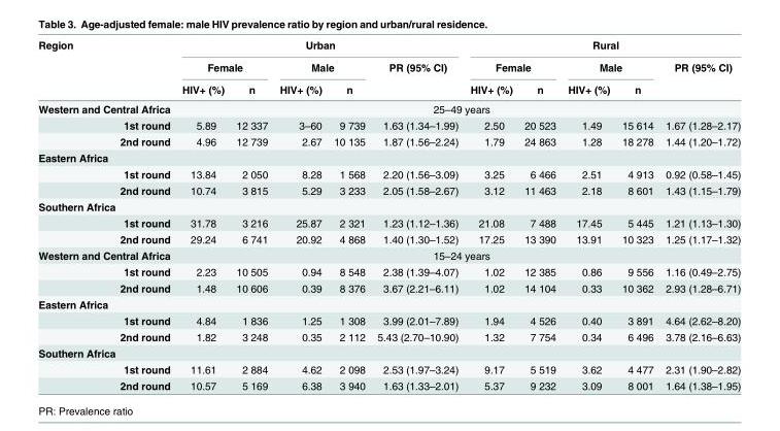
<table><thead><tr><td rowspan="3">Region</td><td colspan="5">Urban</td><td colspan="5">Rural</td></tr><tr><td colspan="2">Female</td><td colspan="2">Male</td><td rowspan="2">PR (95% CI)</td><td colspan="2">Female</td><td colspan="2">Male</td><td rowspan="2">PR (95% CI)</td></tr><tr><td>HIV+ (%)</td><td>n</td><td>HIV+ (%)</td><td>n</td><td>HIV+ (%)</td><td>n</td><td>HIV+ (%)</td><td>n</td></tr></thead><tbody><tr><td>Western and Central Africa</td><td colspan="10">25–49 years</td></tr><tr><td>1st round</td><td>5.89</td><td>12 337</td><td>3–60</td><td>9 739</td><td>1.63 (1.34–1.99)</td><td>2.50</td><td>20 523</td><td>1.49</td><td>15 614</td><td>1.67 (1.28–2.17)</td></tr><tr><td>2nd round</td><td>4.96</td><td>12 739</td><td>2.67</td><td>10 135</td><td>1.87 (1.56–2.24)</td><td>1.79</td><td>24 863</td><td>1.28</td><td>18 278</td><td>1.44 (1.20–1.72)</td></tr><tr><td colspan="11">Eastern Africa</td></tr><tr><td>1st round</td><td>13.84</td><td>2 050</td><td>8.28</td><td>1 568</td><td>2.20 (1.56–3.09)</td><td>3.25</td><td>6 466</td><td>2.51</td><td>4 913</td><td>0.92 (0.58–1.45)</td></tr><tr><td>2nd round</td><td>10.74</td><td>3 815</td><td>5.29</td><td>3 233</td><td>2.05 (1.58–2.67)</td><td>3.12</td><td>11 463</td><td>2.18</td><td>8 601</td><td>1.43 (1.15–1.79)</td></tr><tr><td colspan="11">Southern Africa</td></tr><tr><td>1st round</td><td>31.78</td><td>3 216</td><td>25.87</td><td>2 321</td><td>1.23 (1.12–1.36)</td><td>21.08</td><td>7 488</td><td>17.45</td><td>5 445</td><td>1.21 (1.13–1.30)</td></tr><tr><td>2nd round</td><td>29.24</td><td>6 741</td><td>20.92</td><td>4 868</td><td>1.40 (1.30–1.52)</td><td>17.25</td><td>13 390</td><td>13.91</td><td>10 323</td><td>1.25 (1.17–1.32)</td></tr><tr><td>Western and Central Africa</td><td colspan="10">15–24 years</td></tr><tr><td>1st round</td><td>2.23</td><td>10 505</td><td>0.94</td><td>8 548</td><td>2.38 (1.39–4.07)</td><td>1.02</td><td>12 385</td><td>0.86</td><td>9 556</td><td>1.16 (0.49–2.75)</td></tr><tr><td>2nd round</td><td>1.48</td><td>10 606</td><td>0.39</td><td>8 376</td><td>3.67 (2.21–6.11)</td><td>1.02</td><td>14 104</td><td>0.33</td><td>10 362</td><td>2.93 (1.28–6.71)</td></tr><tr><td colspan="11">Eastern Africa</td></tr><tr><td>1st round</td><td>4.84</td><td>1 836</td><td>1.25</td><td>1 308</td><td>3.99 (2.01–7.89)</td><td>1.94</td><td>4 526</td><td>0.40</td><td>3 891</td><td>4.64 (2.62–8.20)</td></tr><tr><td>2nd round</td><td>1.82</td><td>3 248</td><td>0.35</td><td>2 112</td><td>5.43 (2.70–10.90)</td><td>1.32</td><td>7 754</td><td>0.34</td><td>6 496</td><td>3.78 (2.16–6.63)</td></tr><tr><td colspan="11">Southern Africa</td></tr><tr><td>1st round</td><td>11.61</td><td>2 884</td><td>4.62</td><td>2 098</td><td>2.53 (1.97–3.24)</td><td>9.17</td><td>5 519</td><td>3.62</td><td>4 477</td><td>2.31 (1.90–2.82)</td></tr><tr><td>2nd round</td><td>10.57</td><td>5 169</td><td>6.38</td><td>3 940</td><td>1.63 (1.33–2.01)</td><td>5.37</td><td>9 232</td><td>3.09</td><td>8 001</td><td>1.64 (1.38–1.95)</td></tr></tbody></table>